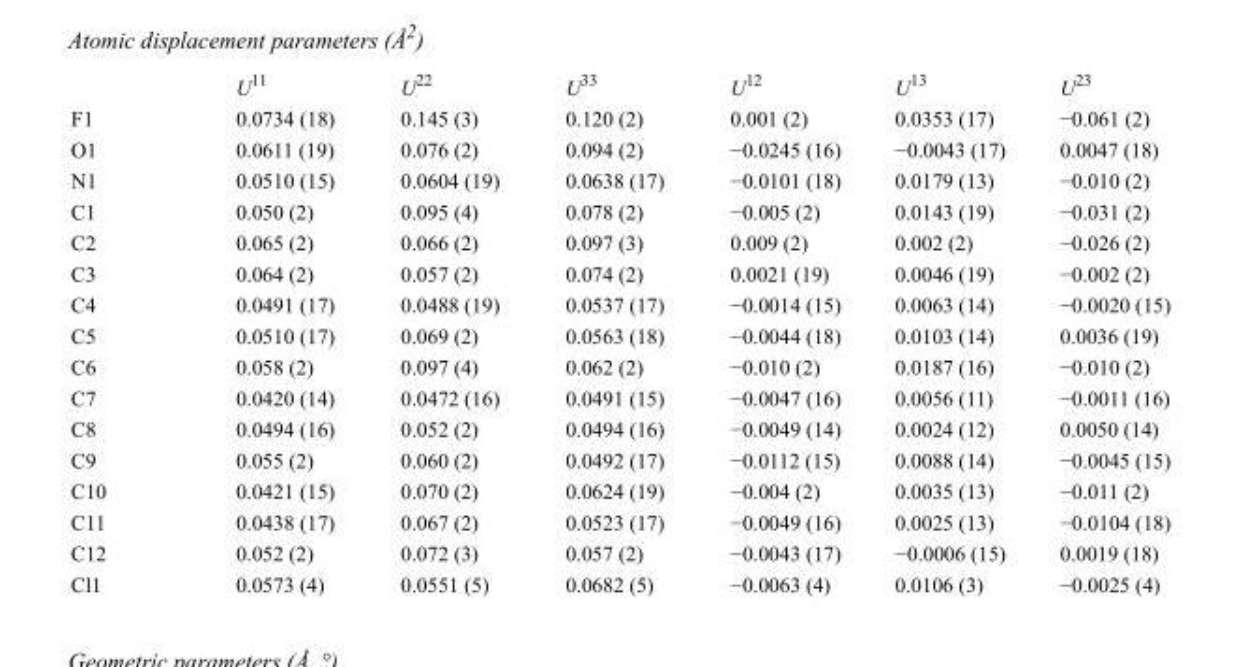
<table><thead><tr><td></td><td>U<sup>11</sup></td><td>U<sup>22</sup></td><td>U<sup>33</sup></td><td>U<sup>12</sup></td><td>U<sup>13</sup></td><td>U<sup>23</sup></td></tr></thead><tbody><tr><td>F1</td><td>0.0734 (18)</td><td>0.145 (3)</td><td>0.120 (2)</td><td>0.001 (2)</td><td>0.0353 (17)</td><td>−0.061 (2)</td></tr><tr><td>O1</td><td>0.0611 (19)</td><td>0.076 (2)</td><td>0.094 (2)</td><td>−0.0245 (16)</td><td>−0.0043 (17)</td><td>0.0047 (18)</td></tr><tr><td>N1</td><td>0.0510 (15)</td><td>0.0604 (19)</td><td>0.0638 (17)</td><td>−0.0101 (18)</td><td>0.0179 (13)</td><td>−0.010 (2)</td></tr><tr><td>C1</td><td>0.050 (2)</td><td>0.095 (4)</td><td>0.078 (2)</td><td>−0.005 (2)</td><td>0.0143 (19)</td><td>−0.031 (2)</td></tr><tr><td>C2</td><td>0.065 (2)</td><td>0.066 (2)</td><td>0.097 (3)</td><td>0.009 (2)</td><td>0.002 (2)</td><td>−0.026 (2)</td></tr><tr><td>C3</td><td>0.064 (2)</td><td>0.057 (2)</td><td>0.074 (2)</td><td>0.0021 (19)</td><td>0.0046 (19)</td><td>−0.002 (2)</td></tr><tr><td>C4</td><td>0.0491 (17)</td><td>0.0488 (19)</td><td>0.0537 (17)</td><td>−0.0014 (15)</td><td>0.0063 (14)</td><td>−0.0020 (15)</td></tr><tr><td>C5</td><td>0.0510 (17)</td><td>0.069 (2)</td><td>0.0563 (18)</td><td>−0.0044 (18)</td><td>0.0103 (14)</td><td>0.0036 (19)</td></tr><tr><td>C6</td><td>0.058 (2)</td><td>0.097 (4)</td><td>0.062 (2)</td><td>−0.010 (2)</td><td>0.0187 (16)</td><td>−0.010 (2)</td></tr><tr><td>C7</td><td>0.0420 (14)</td><td>0.0472 (16)</td><td>0.0491 (15)</td><td>−0.0047 (16)</td><td>0.0056 (11)</td><td>−0.0011 (16)</td></tr><tr><td>C8</td><td>0.0494 (16)</td><td>0.052 (2)</td><td>0.0494 (16)</td><td>−0.0049 (14)</td><td>0.0024 (12)</td><td>0.0050 (14)</td></tr><tr><td>C9</td><td>0.055 (2)</td><td>0.060 (2)</td><td>0.0492 (17)</td><td>−0.0112 (15)</td><td>0.0088 (14)</td><td>−0.0045 (15)</td></tr><tr><td>C10</td><td>0.0421 (15)</td><td>0.070 (2)</td><td>0.0624 (19)</td><td>−0.004 (2)</td><td>0.0035 (13)</td><td>−0.011 (2)</td></tr><tr><td>C11</td><td>0.0438 (17)</td><td>0.067 (2)</td><td>0.0523 (17)</td><td>−0.0049 (16)</td><td>0.0025 (13)</td><td>−0.0104 (18)</td></tr><tr><td>C12</td><td>0.052 (2)</td><td>0.072 (3)</td><td>0.057 (2)</td><td>−0.0043 (17)</td><td>−0.0006 (15)</td><td>0.0019 (18)</td></tr><tr><td>Cl1</td><td>0.0573 (4)</td><td>0.0551 (5)</td><td>0.0682 (5)</td><td>−0.0063 (4)</td><td>0.0106 (3)</td><td>−0.0025 (4)</td></tr></tbody></table>